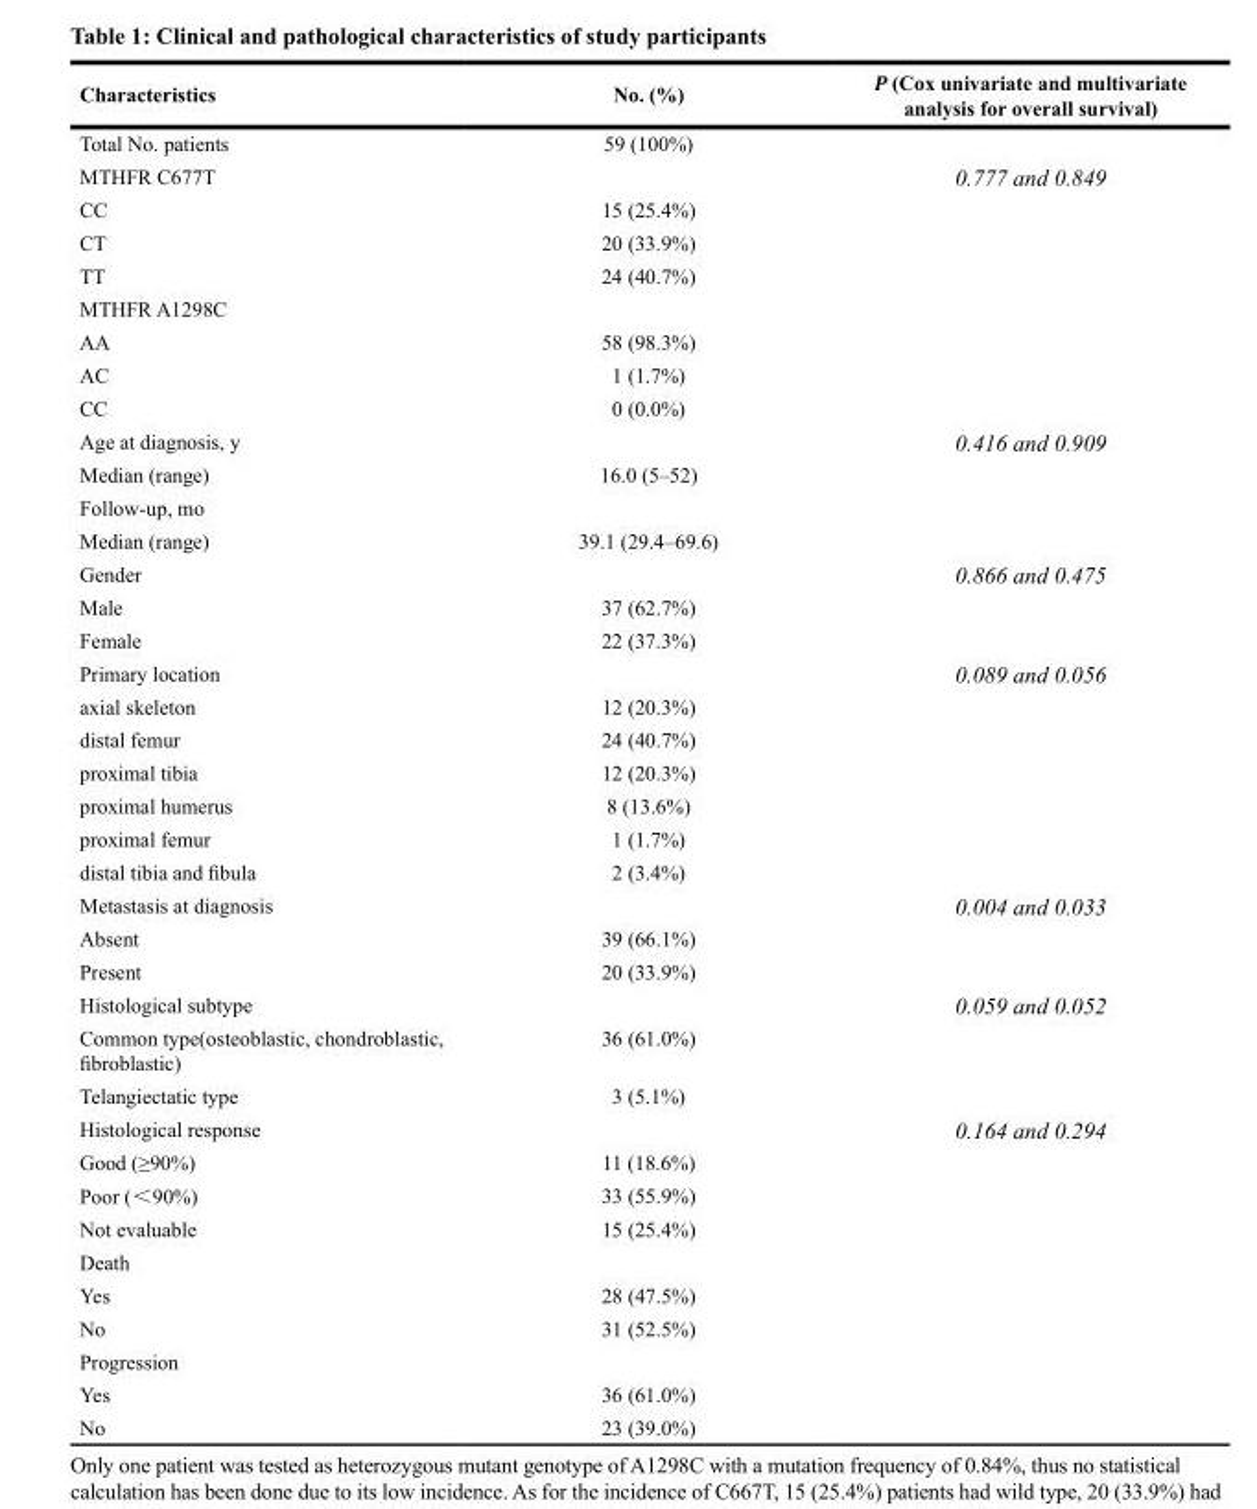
<table><thead><tr><td>Characteristics</td><td>No. (%)</td><td>P (Cox univariate and multivariate analysis for overall survival)</td></tr></thead><tbody><tr><td>Total No. patients</td><td>59 (100%)</td><td></td></tr><tr><td>MTHFR C677T</td><td></td><td>0.777 and 0.849</td></tr><tr><td>CC</td><td>15 (25.4%)</td><td></td></tr><tr><td>CT</td><td>20 (33.9%)</td><td></td></tr><tr><td>TT</td><td>24 (40.7%)</td><td></td></tr><tr><td colspan="3">MTHFR A1298C</td></tr><tr><td>AA</td><td>58 (98.3%)</td><td></td></tr><tr><td>AC</td><td>1 (1.7%)</td><td></td></tr><tr><td>CC</td><td>0 (0.0%)</td><td></td></tr><tr><td>Age at diagnosis, y</td><td></td><td>0.416 and 0.909</td></tr><tr><td>Median (range)</td><td>16.0 (5–52)</td><td></td></tr><tr><td colspan="3">Follow-up, mo</td></tr><tr><td>Median (range)</td><td>39.1 (29.4–69.6)</td><td></td></tr><tr><td>Gender</td><td></td><td>0.866 and 0.475</td></tr><tr><td>Male</td><td>37 (62.7%)</td><td></td></tr><tr><td>Female</td><td>22 (37.3%)</td><td></td></tr><tr><td>Primary location</td><td></td><td>0.089 and 0.056</td></tr><tr><td>axial skeleton</td><td>12 (20.3%)</td><td></td></tr><tr><td>distal femur</td><td>24 (40.7%)</td><td></td></tr><tr><td>proximal tibia</td><td>12 (20.3%)</td><td></td></tr><tr><td>proximal humerus</td><td>8 (13.6%)</td><td></td></tr><tr><td>proximal femur</td><td>1 (1.7%)</td><td></td></tr><tr><td>distal tibia and fibula</td><td>2 (3.4%)</td><td></td></tr><tr><td>Metastasis at diagnosis</td><td></td><td>0.004 and 0.033</td></tr><tr><td>Absent</td><td>39 (66.1%)</td><td></td></tr><tr><td>Present</td><td>20 (33.9%)</td><td></td></tr><tr><td>Histological subtype</td><td></td><td>0.059 and 0.052</td></tr><tr><td>Common type(osteoblastic, chondroblastic, fibroblastic)</td><td>36 (61.0%)</td><td></td></tr><tr><td>Telangiectatic type</td><td>3 (5.1%)</td><td></td></tr><tr><td>Histological response</td><td></td><td>0.164 and 0.294</td></tr><tr><td>Good (≥90%)</td><td>11 (18.6%)</td><td></td></tr><tr><td>Poor (＜90%)</td><td>33 (55.9%)</td><td></td></tr><tr><td>Not evaluable</td><td>15 (25.4%)</td><td></td></tr><tr><td colspan="3">Death</td></tr><tr><td>Yes</td><td>28 (47.5%)</td><td></td></tr><tr><td>No</td><td>31 (52.5%)</td><td></td></tr><tr><td colspan="3">Progression</td></tr><tr><td>Yes</td><td>36 (61.0%)</td><td></td></tr><tr><td>No</td><td>23 (39.0%)</td><td></td></tr></tbody></table>